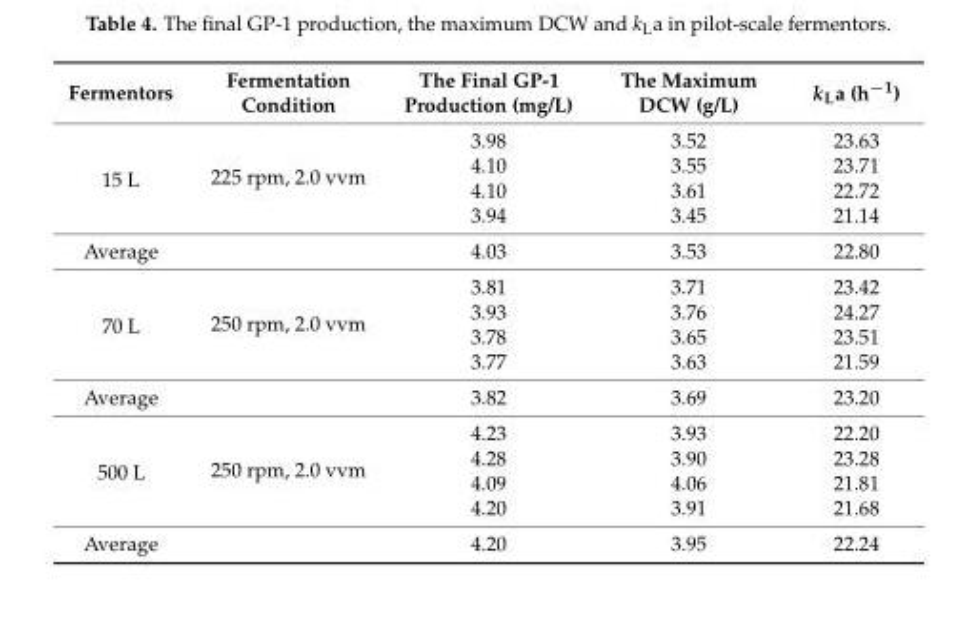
<table><thead><tr><td>Fermentors</td><td>Fermentation Condition</td><td>The Final GP-1 Production (mg/L)</td><td>The Maximum DCW (g/L)</td><td>k<sub>L</sub>a (h<sup>−1</sup>)</td></tr></thead><tbody><tr><td rowspan="4">15 L</td><td rowspan="4">225 rpm, 2.0 vvm</td><td>3.98</td><td>3.52</td><td>23.63</td></tr><tr><td>4.10</td><td>3.55</td><td>23.71</td></tr><tr><td>4.10</td><td>3.61</td><td>22.72</td></tr><tr><td>3.94</td><td>3.45</td><td>21.14</td></tr><tr><td>Average</td><td></td><td>4.03</td><td>3.53</td><td>22.80</td></tr><tr><td rowspan="4">70 L</td><td rowspan="4">250 rpm, 2.0 vvm</td><td>3.81</td><td>3.71</td><td>23.42</td></tr><tr><td>3.93</td><td>3.76</td><td>24.27</td></tr><tr><td>3.78</td><td>3.65</td><td>23.51</td></tr><tr><td>3.77</td><td>3.63</td><td>21.59</td></tr><tr><td>Average</td><td></td><td>3.82</td><td>3.69</td><td>23.20</td></tr><tr><td rowspan="4">500 L</td><td rowspan="4">250 rpm, 2.0 vvm</td><td>4.23</td><td>3.93</td><td>22.20</td></tr><tr><td>4.28</td><td>3.90</td><td>23.28</td></tr><tr><td>4.09</td><td>4.06</td><td>21.81</td></tr><tr><td>4.20</td><td>3.91</td><td>21.68</td></tr><tr><td>Average</td><td></td><td>4.20</td><td>3.95</td><td>22.24</td></tr></tbody></table>